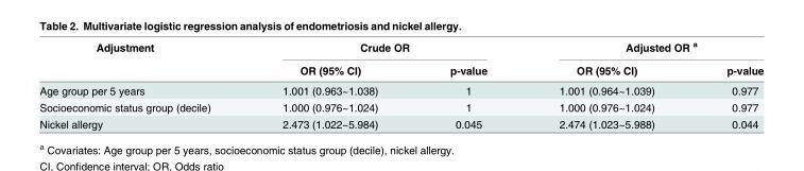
<table><thead><tr><td rowspan="2">Adjustment</td><td colspan="2">Crude OR</td><td colspan="2">Adjusted OR <sup>a</sup></td></tr><tr><td>OR (95% CI)</td><td>p-value</td><td>OR (95% CI)</td><td>p-value</td></tr></thead><tbody><tr><td>Age group per 5 years</td><td>1.001 (0.963~1.038)</td><td>1</td><td>1.001 (0.964~1.039)</td><td>0.977</td></tr><tr><td>Socioeconomic status group (decile)</td><td>1.000 (0.976~1.024)</td><td>1</td><td>1.000 (0.976~1.024)</td><td>0.977</td></tr><tr><td>Nickel allergy</td><td>2.473 (1.022~5.984)</td><td>0.045</td><td>2.474 (1.023~5.988)</td><td>0.044</td></tr></tbody></table>